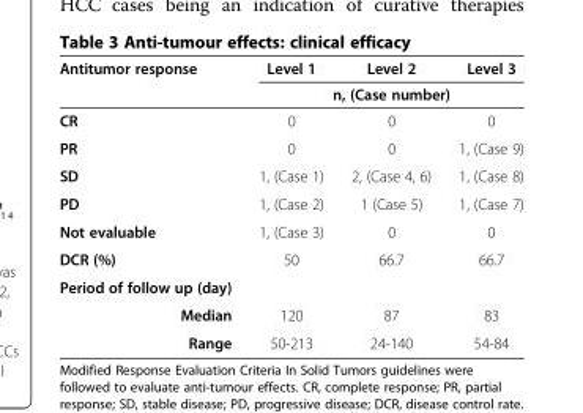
<table><thead><tr><td rowspan="2">Antitumor response</td><td>Level 1</td><td>Level 2</td><td>Level 3</td></tr><tr><td colspan="3">n, (Case number)</td></tr></thead><tbody><tr><td>CR</td><td>0</td><td>0</td><td>0</td></tr><tr><td>PR</td><td>0</td><td>0</td><td>1, (Case 9)</td></tr><tr><td>SD</td><td>1, (Case 1)</td><td>2, (Case 4, 6)</td><td>1, (Case 8)</td></tr><tr><td>PD</td><td>1, (Case 2)</td><td>1 (Case 5)</td><td>1, (Case 7)</td></tr><tr><td>Not evaluable</td><td>1, (Case 3)</td><td>0</td><td>0</td></tr><tr><td>DCR (%)</td><td>50</td><td>66.7</td><td>66.7</td></tr><tr><td colspan="4">Period of follow up (day)</td></tr><tr><td>Median</td><td>120</td><td>87</td><td>83</td></tr><tr><td>Range</td><td>50-213</td><td>24-140</td><td>54-84</td></tr></tbody></table>